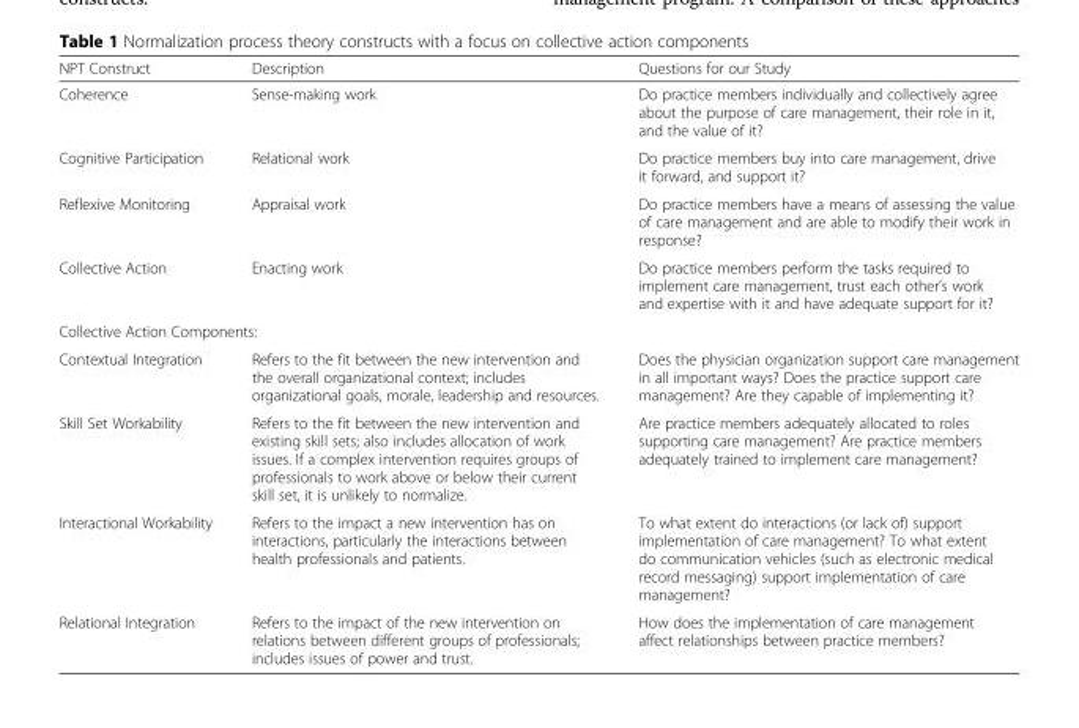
<table><thead><tr><td>NPT Construct</td><td>Description</td><td>Questions for our Study</td></tr></thead><tbody><tr><td>Coherence</td><td>Sense-making work</td><td>Do practice members individually and collectively agree about the purpose of care management, their role in it, and the value of it?</td></tr><tr><td>Cognitive Participation</td><td>Relational work</td><td>Do practice members buy into care management, drive it forward, and support it?</td></tr><tr><td>Reflexive Monitoring</td><td>Appraisal work</td><td>Do practice members have a means of assessing the value of care management and are able to modify their work in response?</td></tr><tr><td>Collective Action</td><td>Enacting work</td><td>Do practice members perform the tasks required to implement care management, trust each other’s work and expertise with it and have adequate support for it?</td></tr><tr><td colspan="3">Collective Action Components:</td></tr><tr><td>Contextual Integration</td><td>Refers to the fit between the new intervention and the overall organizational context; includes organizational goals, morale, leadership and resources.</td><td>Does the physician organization support care management in all important ways? Does the practice support care management? Are they capable of implementing it?</td></tr><tr><td>Skill Set Workability</td><td>Refers to the fit between the new intervention and existing skill sets; also includes allocation of work issues. If a complex intervention requires groups of professionals to work above or below their current skill set, it is unlikely to normalize.</td><td>Are practice members adequately allocated to roles supporting care management? Are practice members adequately trained to implement care management?</td></tr><tr><td>Interactional Workability</td><td>Refers to the impact a new intervention has on interactions, particularly the interactions between health professionals and patients.</td><td>To what extent do interactions (or lack of) support implementation of care management? To what extent do communication vehicles (such as electronic medical record messaging) support implementation of care management?</td></tr><tr><td>Relational Integration</td><td>Refers to the impact of the new intervention on relations between different groups of professionals; includes issues of power and trust.</td><td>How does the implementation of care management affect relationships between practice members?</td></tr></tbody></table>